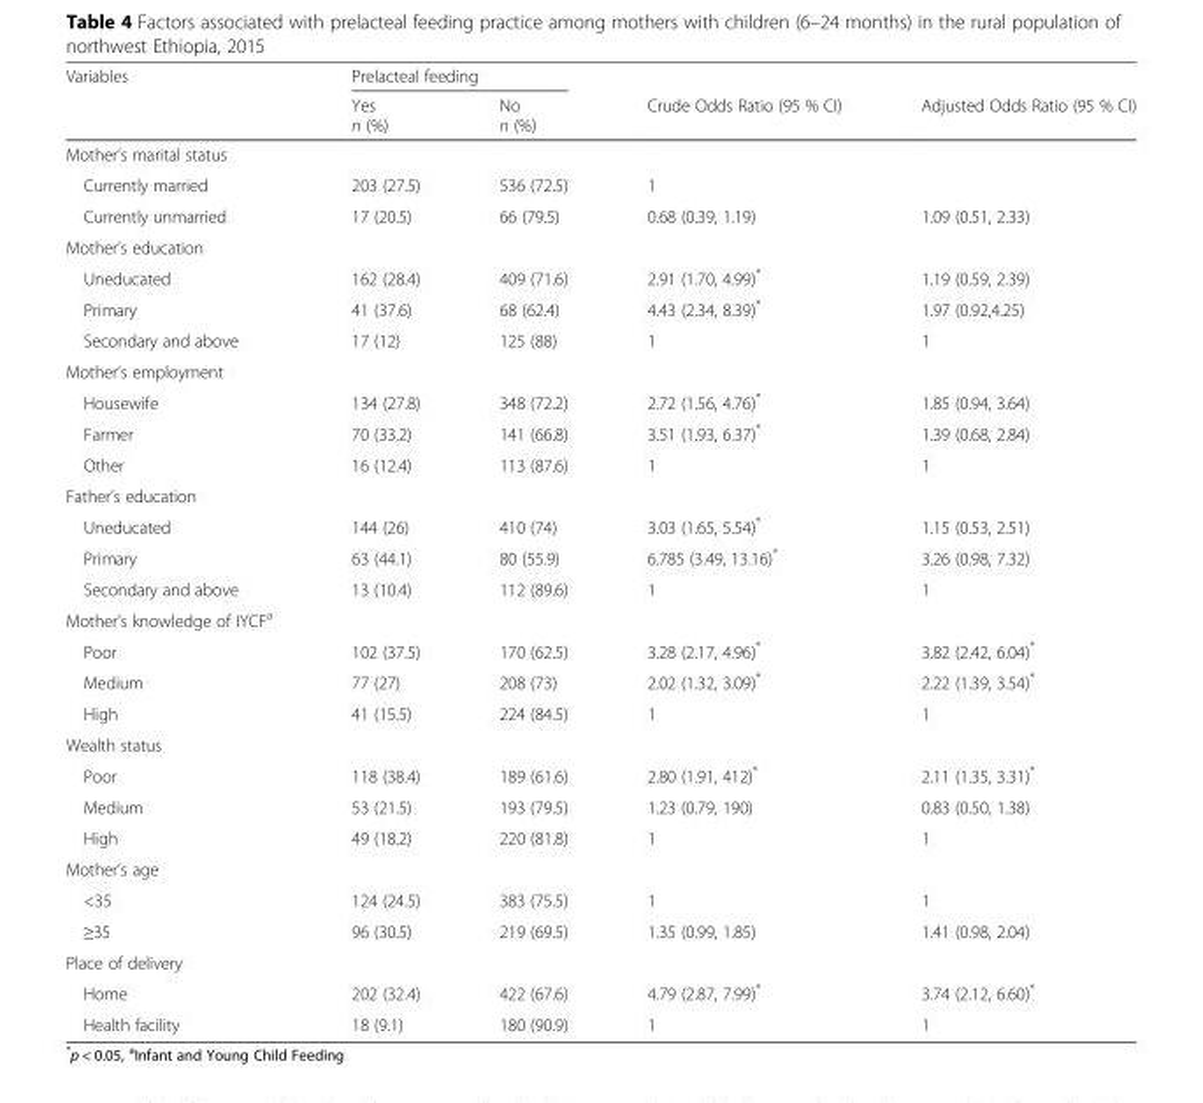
<table><thead><tr><td rowspan="2">Variables</td><td colspan="2">Prelacteal feeding</td><td rowspan="2">Crude Odds Ratio (95 % CI)</td><td rowspan="2">Adjusted Odds Ratio (95 % CI)</td></tr><tr><td>Yes n (%)</td><td>No n (%)</td></tr></thead><tbody><tr><td colspan="5">Mother’s marital status</td></tr><tr><td>Currently married</td><td>203 (27.5)</td><td>536 (72.5)</td><td>1</td><td></td></tr><tr><td>Currently unmarried</td><td>17 (20.5)</td><td>66 (79.5)</td><td>0.68 (0.39, 1.19)</td><td>1.09 (0.51, 2.33)</td></tr><tr><td colspan="5">Mother’s education</td></tr><tr><td>Uneducated</td><td>162 (28.4)</td><td>409 (71.6)</td><td>2.91 (1.70, 4.99)*</td><td>1.19 (0.59, 2.39)</td></tr><tr><td>Primary</td><td>41 (37.6)</td><td>68 (62.4)</td><td>4.43 (2.34, 8.39)*</td><td>1.97 (0.92,4.25)</td></tr><tr><td>Secondary and above</td><td>17 (12)</td><td>125 (88)</td><td>1</td><td>1</td></tr><tr><td colspan="5">Mother’s employment</td></tr><tr><td>Housewife</td><td>134 (27.8)</td><td>348 (72.2)</td><td>2.72 (1.56, 4.76)*</td><td>1.85 (0.94, 3.64)</td></tr><tr><td>Farmer</td><td>70 (33.2)</td><td>141 (66.8)</td><td>3.51 (1.93, 6.37)*</td><td>1.39 (0.68, 2.84)</td></tr><tr><td>Other</td><td>16 (12.4)</td><td>113 (87.6)</td><td>1</td><td>1</td></tr><tr><td colspan="5">Father’s education</td></tr><tr><td>Uneducated</td><td>144 (26)</td><td>410 (74)</td><td>3.03 (1.65, 5.54)*</td><td>1.15 (0.53, 2.51)</td></tr><tr><td>Primary</td><td>63 (44.1)</td><td>80 (55.9)</td><td>6.785 (3.49, 13.16)*</td><td>3.26 (0.98, 7.32)</td></tr><tr><td>Secondary and above</td><td>13 (10.4)</td><td>112 (89.6)</td><td>1</td><td>1</td></tr><tr><td colspan="5">Mother’s knowledge of IYCF<sup>a</sup></td></tr><tr><td>Poor</td><td>102 (37.5)</td><td>170 (62.5)</td><td>3.28 (2.17, 4.96)*</td><td>3.82 (2.42, 6.04)*</td></tr><tr><td>Medium</td><td>77 (27)</td><td>208 (73)</td><td>2.02 (1.32, 3.09)*</td><td>2.22 (1.39, 3.54)*</td></tr><tr><td>High</td><td>41 (15.5)</td><td>224 (84.5)</td><td>1</td><td>1</td></tr><tr><td colspan="5">Wealth status</td></tr><tr><td>Poor</td><td>118 (38.4)</td><td>189 (61.6)</td><td>2.80 (1.91, 412)*</td><td>2.11 (1.35, 3.31)*</td></tr><tr><td>Medium</td><td>53 (21.5)</td><td>193 (79.5)</td><td>1.23 (0.79, 190)</td><td>0.83 (0.50, 1.38)</td></tr><tr><td>High</td><td>49 (18.2)</td><td>220 (81.8)</td><td>1</td><td>1</td></tr><tr><td colspan="5">Mother’s age</td></tr><tr><td>&lt;35</td><td>124 (24.5)</td><td>383 (75.5)</td><td>1</td><td>1</td></tr><tr><td>≥35</td><td>96 (30.5)</td><td>219 (69.5)</td><td>1.35 (0.99, 1.85)</td><td>1.41 (0.98, 2.04)</td></tr><tr><td colspan="5">Place of delivery</td></tr><tr><td>Home</td><td>202 (32.4)</td><td>422 (67.6)</td><td>4.79 (2.87, 7.99)*</td><td>3.74 (2.12, 6.60)*</td></tr><tr><td>Health facility</td><td>18 (9.1)</td><td>180 (90.9)</td><td>1</td><td>1</td></tr></tbody></table>